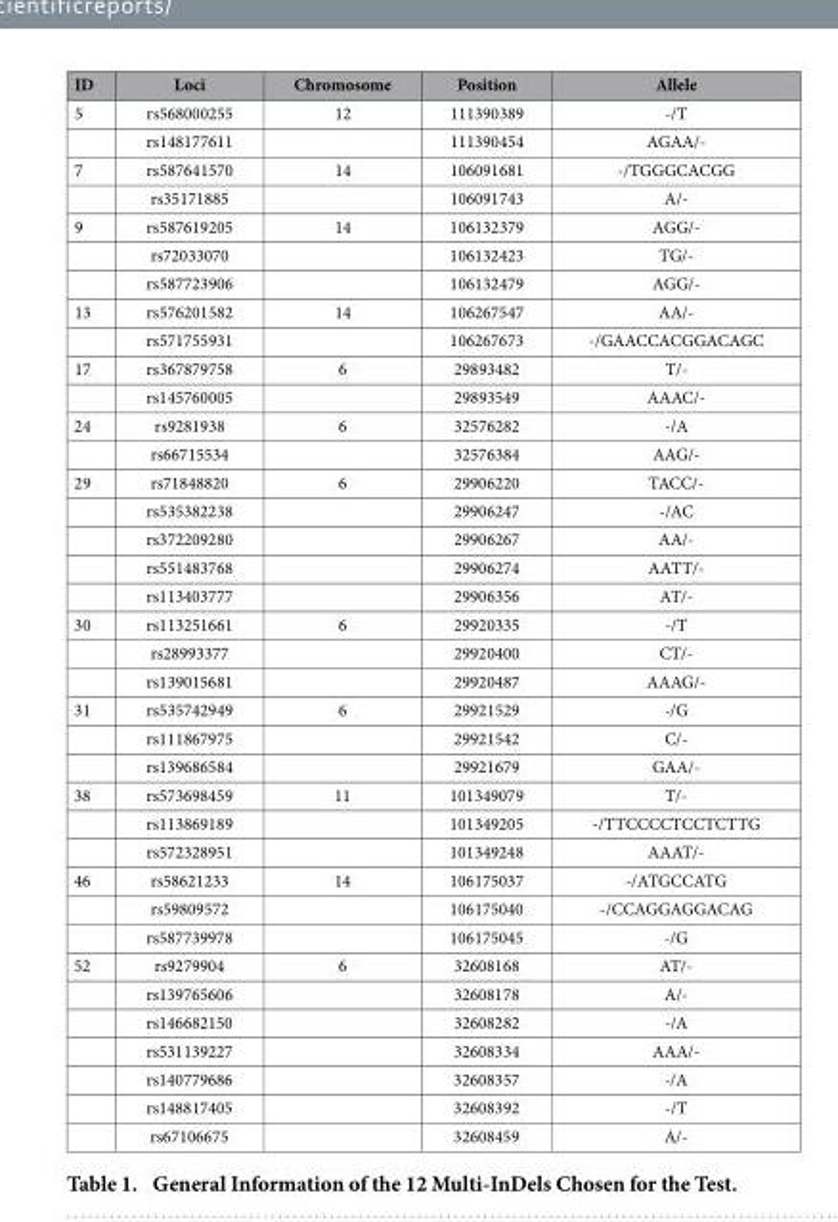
<table><thead><tr><td>ID</td><td>Loci</td><td>Chromosome</td><td>Position</td><td>Allele</td></tr></thead><tbody><tr><td rowspan="2">5</td><td>rs568000255</td><td>12</td><td>111390389</td><td>-/T</td></tr><tr><td>rs148177611</td><td></td><td>111390454</td><td>AGAA/-</td></tr><tr><td rowspan="2">7</td><td>rs587641570</td><td>14</td><td>106091681</td><td>-/TGGGCACGG</td></tr><tr><td>rs35171885</td><td></td><td>106091743</td><td>A/-</td></tr><tr><td rowspan="3">9</td><td>rs587619205</td><td>14</td><td>106132379</td><td>AGG/-</td></tr><tr><td>rs72033070</td><td></td><td>106132423</td><td>TG/-</td></tr><tr><td>rs587723906</td><td></td><td>106132479</td><td>AGG/-</td></tr><tr><td rowspan="2">13</td><td>rs576201582</td><td>14</td><td>106267547</td><td>AA/-</td></tr><tr><td>rs571755931</td><td></td><td>106267673</td><td>-/GAACCACGGACAGC</td></tr><tr><td rowspan="2">17</td><td>rs367879758</td><td>6</td><td>29893482</td><td>T/-</td></tr><tr><td>rs145760005</td><td></td><td>29893549</td><td>AAAC/-</td></tr><tr><td rowspan="2">24</td><td>rs9281938</td><td>6</td><td>32576282</td><td>-/A</td></tr><tr><td>rs66715534</td><td></td><td>32576384</td><td>AAG/-</td></tr><tr><td rowspan="5">29</td><td>rs71848820</td><td>6</td><td>29906220</td><td>TACC/-</td></tr><tr><td>rs535382238</td><td></td><td>29906247</td><td>-/AC</td></tr><tr><td>rs372209280</td><td></td><td>29906267</td><td>AA/-</td></tr><tr><td>rs551483768</td><td></td><td>29906274</td><td>AATT/-</td></tr><tr><td>rs113403777</td><td></td><td>29906356</td><td>AT/-</td></tr><tr><td rowspan="3">30</td><td>rs113251661</td><td>6</td><td>29920335</td><td>-/T</td></tr><tr><td>rs28993377</td><td></td><td>29920400</td><td>CT/-</td></tr><tr><td>rs139015681</td><td></td><td>29920487</td><td>AAAG/-</td></tr><tr><td rowspan="3">31</td><td>rs535742949</td><td>6</td><td>29921529</td><td>-/G</td></tr><tr><td>rs111867975</td><td></td><td>29921542</td><td>C/-</td></tr><tr><td>rs139686584</td><td></td><td>29921679</td><td>GAA/-</td></tr><tr><td rowspan="3">38</td><td>rs573698459</td><td>11</td><td>101349079</td><td>T/-</td></tr><tr><td>rs113869189</td><td></td><td>101349205</td><td>-/TTCCCCTCCTCTTG</td></tr><tr><td>rs572328951</td><td></td><td>101349248</td><td>AAAT/-</td></tr><tr><td rowspan="3">46</td><td>rs58621233</td><td>14</td><td>106175037</td><td>-/ATGCCATG</td></tr><tr><td>rs59809572</td><td></td><td>106175040</td><td>-/CCAGGAGGACAG</td></tr><tr><td>rs587739978</td><td></td><td>106175045</td><td>-/G</td></tr><tr><td rowspan="7">52</td><td>rs9279904</td><td>6</td><td>32608168</td><td>AT/-</td></tr><tr><td>rs139765606</td><td></td><td>32608178</td><td>A/-</td></tr><tr><td>rs146682150</td><td></td><td>32608282</td><td>-/A</td></tr><tr><td>rs531139227</td><td></td><td>32608334</td><td>AAA/-</td></tr><tr><td>rs140779686</td><td></td><td>32608357</td><td>-/A</td></tr><tr><td>rs148817405</td><td></td><td>32608392</td><td>-/T</td></tr><tr><td>rs67106675</td><td></td><td>32608459</td><td>A/-</td></tr></tbody></table>